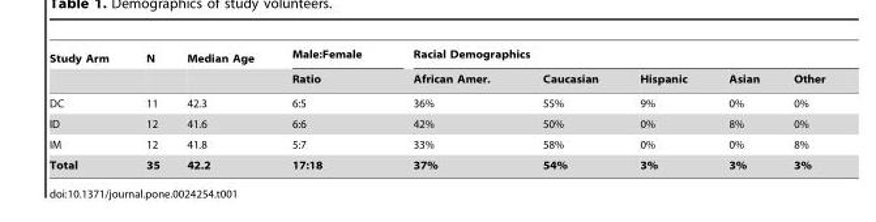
<table><thead><tr><td rowspan="2">Study Arm</td><td rowspan="2">N</td><td rowspan="2">Median Age</td><td rowspan="2">Male:Female Ratio</td><td colspan="5">Racial Demographics</td></tr><tr><td>African Amer.</td><td>Caucasian</td><td>Hispanic</td><td>Asian</td><td>Other</td></tr></thead><tbody><tr><td>DC</td><td>11</td><td>42.3</td><td>6:5</td><td>36%</td><td>55%</td><td>9%</td><td>0%</td><td>0%</td></tr><tr><td>ID</td><td>12</td><td>41.6</td><td>6:6</td><td>42%</td><td>50%</td><td>0%</td><td>8%</td><td>0%</td></tr><tr><td>IM</td><td>12</td><td>41.8</td><td>5:7</td><td>33%</td><td>58%</td><td>0%</td><td>0%</td><td>8%</td></tr><tr><td>Total</td><td>35</td><td>42.2</td><td>17:18</td><td>37%</td><td>54%</td><td>3%</td><td>3%</td><td>3%</td></tr></tbody></table>